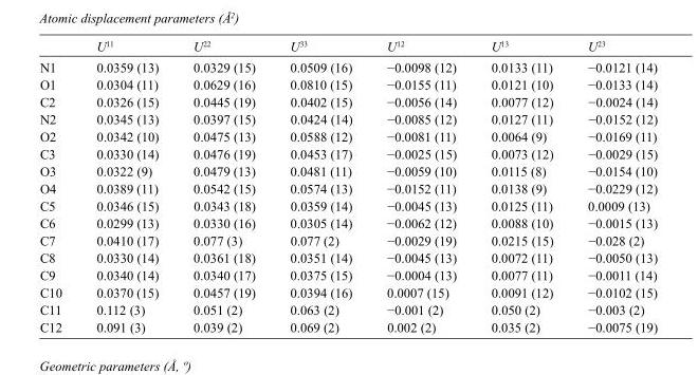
<table><thead><tr><td></td><td>U<sup>11</sup></td><td>U<sup>22</sup></td><td>U<sup>33</sup></td><td>U<sup>12</sup></td><td>U<sup>13</sup></td><td>U<sup>23</sup></td></tr></thead><tbody><tr><td>N1</td><td>0.0359 (13)</td><td>0.0329 (15)</td><td>0.0509 (16)</td><td>−0.0098 (12)</td><td>0.0133 (11)</td><td>−0.0121 (14)</td></tr><tr><td>O1</td><td>0.0304 (11)</td><td>0.0629 (16)</td><td>0.0810 (15)</td><td>−0.0155 (11)</td><td>0.0121 (10)</td><td>−0.0133 (14)</td></tr><tr><td>C2</td><td>0.0326 (15)</td><td>0.0445 (19)</td><td>0.0402 (15)</td><td>−0.0056 (14)</td><td>0.0077 (12)</td><td>−0.0024 (14)</td></tr><tr><td>N2</td><td>0.0345 (13)</td><td>0.0397 (15)</td><td>0.0424 (14)</td><td>−0.0085 (12)</td><td>0.0127 (11)</td><td>−0.0152 (12)</td></tr><tr><td>O2</td><td>0.0342 (10)</td><td>0.0475 (13)</td><td>0.0588 (12)</td><td>−0.0081 (11)</td><td>0.0064 (9)</td><td>−0.0169 (11)</td></tr><tr><td>C3</td><td>0.0330 (14)</td><td>0.0476 (19)</td><td>0.0453 (17)</td><td>−0.0025 (15)</td><td>0.0073 (12)</td><td>−0.0029 (15)</td></tr><tr><td>O3</td><td>0.0322 (9)</td><td>0.0479 (13)</td><td>0.0481 (11)</td><td>−0.0059 (10)</td><td>0.0115 (8)</td><td>−0.0154 (10)</td></tr><tr><td>O4</td><td>0.0389 (11)</td><td>0.0542 (15)</td><td>0.0574 (13)</td><td>−0.0152 (11)</td><td>0.0138 (9)</td><td>−0.0229 (12)</td></tr><tr><td>C5</td><td>0.0346 (15)</td><td>0.0343 (18)</td><td>0.0359 (14)</td><td>−0.0045 (13)</td><td>0.0125 (11)</td><td>0.0009 (13)</td></tr><tr><td>C6</td><td>0.0299 (13)</td><td>0.0330 (16)</td><td>0.0305 (14)</td><td>−0.0062 (12)</td><td>0.0088 (10)</td><td>−0.0015 (13)</td></tr><tr><td>C7</td><td>0.0410 (17)</td><td>0.077 (3)</td><td>0.077 (2)</td><td>−0.0029 (19)</td><td>0.0215 (15)</td><td>−0.028 (2)</td></tr><tr><td>C8</td><td>0.0330 (14)</td><td>0.0361 (18)</td><td>0.0351 (14)</td><td>−0.0045 (13)</td><td>0.0072 (11)</td><td>−0.0050 (13)</td></tr><tr><td>C9</td><td>0.0340 (14)</td><td>0.0340 (17)</td><td>0.0375 (15)</td><td>−0.0004 (13)</td><td>0.0077 (11)</td><td>−0.0011 (14)</td></tr><tr><td>C10</td><td>0.0370 (15)</td><td>0.0457 (19)</td><td>0.0394 (16)</td><td>0.0007 (15)</td><td>0.0091 (12)</td><td>−0.0102 (15)</td></tr><tr><td>C11</td><td>0.112 (3)</td><td>0.051 (2)</td><td>0.063 (2)</td><td>−0.001 (2)</td><td>0.050 (2)</td><td>−0.003 (2)</td></tr><tr><td>C12</td><td>0.091 (3)</td><td>0.039 (2)</td><td>0.069 (2)</td><td>0.002 (2)</td><td>0.035 (2)</td><td>−0.0075 (19)</td></tr></tbody></table>